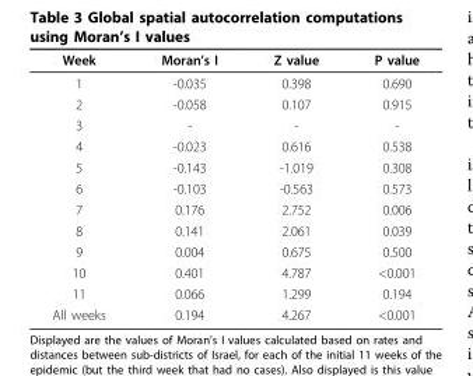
<table><thead><tr><td>Week</td><td>Moran’s I</td><td>Z value</td><td>P value</td></tr></thead><tbody><tr><td>1</td><td>-0.035</td><td>0.398</td><td>0.690</td></tr><tr><td>2</td><td>-0.058</td><td>0.107</td><td>0.915</td></tr><tr><td>3</td><td>-</td><td>-</td><td>-</td></tr><tr><td>4</td><td>-0.023</td><td>0.616</td><td>0.538</td></tr><tr><td>5</td><td>-0.143</td><td>-1.019</td><td>0.308</td></tr><tr><td>6</td><td>-0.103</td><td>-0.563</td><td>0.573</td></tr><tr><td>7</td><td>0.176</td><td>2.752</td><td>0.006</td></tr><tr><td>8</td><td>0.141</td><td>2.061</td><td>0.039</td></tr><tr><td>9</td><td>0.004</td><td>0.675</td><td>0.500</td></tr><tr><td>10</td><td>0.401</td><td>4.787</td><td>&lt;0.001</td></tr><tr><td>11</td><td>0.066</td><td>1.299</td><td>0.194</td></tr><tr><td>All weeks</td><td>0.194</td><td>4.267</td><td>&lt;0.001</td></tr></tbody></table>